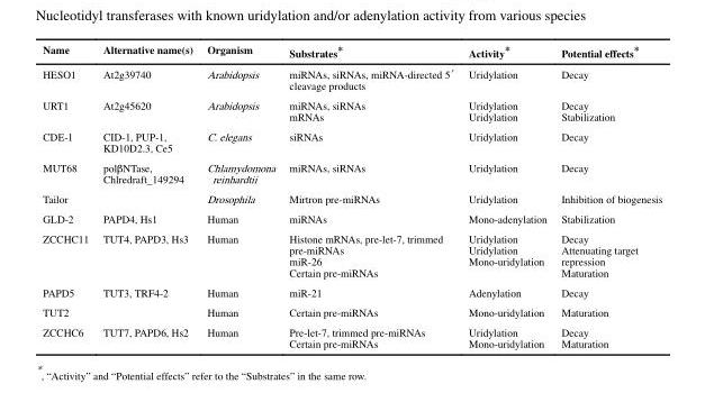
<table><thead><tr><td>Name</td><td>Alternative name(s)</td><td>Organism</td><td>Substrates*</td><td>Activity*</td><td>Potential effects*</td></tr></thead><tbody><tr><td>HESO1</td><td>At2g39740</td><td>Arabidopsis</td><td>miRNAs, siRNAs, miRNA-directed 5′ cleavage products</td><td>Uridylation</td><td>Decay</td></tr><tr><td>URT1</td><td>At2g45620</td><td>Arabidopsis</td><td>miRNAs, siRNAs mRNAs</td><td>Uridylation Uridylation</td><td>Decay Stabilization</td></tr><tr><td>CDE-1</td><td>CID-1, PUP-1, KD10D2.3, Ce5</td><td>C. elegans</td><td>siRNAs</td><td>Uridylation</td><td>Decay</td></tr><tr><td>MUT68</td><td>polβNTase, Chlredraft_149294</td><td>Chlamydomona reinhardtii</td><td>miRNAs, siRNAs</td><td>Uridylation</td><td>Decay</td></tr><tr><td>Tailor</td><td></td><td>Drosophila</td><td>Mirtron pre-miRNAs</td><td>Uridylation</td><td>Inhibition of biogenesis</td></tr><tr><td>GLD-2</td><td>PAPD4, Hs1</td><td>Human</td><td>miRNAs</td><td>Mono-adenylation</td><td>Stabilization</td></tr><tr><td>ZCCHC11</td><td>TUT4, PAPD3, Hs3</td><td>Human</td><td>Histone mRNAs, pre-let-7, trimmed pre-miRNAs miR-26 Certain pre-miRNAs</td><td>Uridylation Uridylation Mono-uridylation</td><td>Decay Attenuating target repression Maturation</td></tr><tr><td>PAPD5</td><td>TUT3, TRF4-2</td><td>Human</td><td>miR-21</td><td>Adenylation</td><td>Decay</td></tr><tr><td>TUT2</td><td></td><td>Human</td><td>Certain pre-miRNAs</td><td>Mono-uridylation</td><td>Maturation</td></tr><tr><td>ZCCHC6</td><td>TUT7, PAPD6, Hs2</td><td>Human</td><td>Pre-let-7, trimmed pre-miRNAs Certain pre-miRNAs</td><td>Uridylation Mono-uridylation</td><td>Decay Maturation</td></tr></tbody></table>